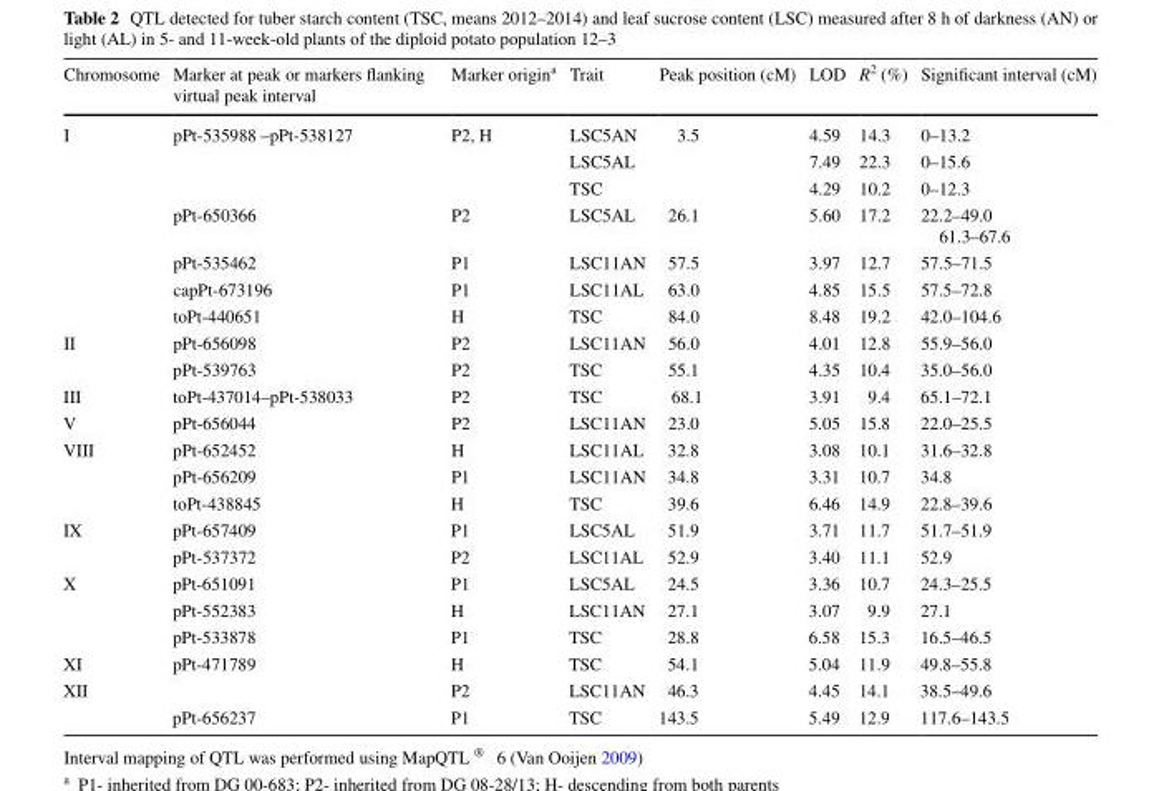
<table><thead><tr><td>Chromosome</td><td>Marker at peak or markers flanking virtual peak interval</td><td>Marker origin<sup>a</sup></td><td>Trait</td><td>Peak position (cM)</td><td>LOD</td><td>R<sup>2</sup> (%)</td><td>Significant interval (cM)</td></tr></thead><tbody><tr><td rowspan="7">I</td><td rowspan="3">pPt-535988 –pPt-538127</td><td rowspan="3">P2, H</td><td>LSC5AN</td><td rowspan="3">3.5</td><td>4.59</td><td>14.3</td><td>0–13.2</td></tr><tr><td>LSC5AL</td><td>7.49</td><td>22.3</td><td>0–15.6</td></tr><tr><td>TSC</td><td>4.29</td><td>10.2</td><td>0–12.3</td></tr><tr><td>pPt-650366</td><td>P2</td><td>LSC5AL</td><td>26.1</td><td>5.60</td><td>17.2</td><td>22.2–49.0 61.3–67.6</td></tr><tr><td>pPt-535462</td><td>P1</td><td>LSC11AN</td><td>57.5</td><td>3.97</td><td>12.7</td><td>57.5–71.5</td></tr><tr><td>capPt-673196</td><td>P1</td><td>LSC11AL</td><td>63.0</td><td>4.85</td><td>15.5</td><td>57.5–72.8</td></tr><tr><td>toPt-440651</td><td>H</td><td>TSC</td><td>84.0</td><td>8.48</td><td>19.2</td><td>42.0–104.6</td></tr><tr><td rowspan="2">II</td><td>pPt-656098</td><td>P2</td><td>LSC11AN</td><td>56.0</td><td>4.01</td><td>12.8</td><td>55.9–56.0</td></tr><tr><td>pPt-539763</td><td>P2</td><td>TSC</td><td>55.1</td><td>4.35</td><td>10.4</td><td>35.0–56.0</td></tr><tr><td>III</td><td>toPt-437014–pPt-538033</td><td>P2</td><td>TSC</td><td>68.1</td><td>3.91</td><td>9.4</td><td>65.1–72.1</td></tr><tr><td>V</td><td>pPt-656044</td><td>P2</td><td>LSC11AN</td><td>23.0</td><td>5.05</td><td>15.8</td><td>22.0–25.5</td></tr><tr><td rowspan="3">VIII</td><td>pPt-652452</td><td>H</td><td>LSC11AL</td><td>32.8</td><td>3.08</td><td>10.1</td><td>31.6–32.8</td></tr><tr><td>pPt-656209</td><td>P1</td><td>LSC11AN</td><td>34.8</td><td>3.31</td><td>10.7</td><td>34.8</td></tr><tr><td>toPt-438845</td><td>H</td><td>TSC</td><td>39.6</td><td>6.46</td><td>14.9</td><td>22.8–39.6</td></tr><tr><td rowspan="2">IX</td><td>pPt-657409</td><td>P1</td><td>LSC5AL</td><td>51.9</td><td>3.71</td><td>11.7</td><td>51.7–51.9</td></tr><tr><td>pPt-537372</td><td>P2</td><td>LSC11AL</td><td>52.9</td><td>3.40</td><td>11.1</td><td>52.9</td></tr><tr><td rowspan="3">X</td><td>pPt-651091</td><td>P1</td><td>LSC5AL</td><td>24.5</td><td>3.36</td><td>10.7</td><td>24.3–25.5</td></tr><tr><td>pPt-552383</td><td>H</td><td>LSC11AN</td><td>27.1</td><td>3.07</td><td>9.9</td><td>27.1</td></tr><tr><td>pPt-533878</td><td>P1</td><td>TSC</td><td>28.8</td><td>6.58</td><td>15.3</td><td>16.5–46.5</td></tr><tr><td>XI</td><td>pPt-471789</td><td>H</td><td>TSC</td><td>54.1</td><td>5.04</td><td>11.9</td><td>49.8–55.8</td></tr><tr><td rowspan="2">XII</td><td></td><td>P2</td><td>LSC11AN</td><td>46.3</td><td>4.45</td><td>14.1</td><td>38.5–49.6</td></tr><tr><td>pPt-656237</td><td>P1</td><td>TSC</td><td>143.5</td><td>5.49</td><td>12.9</td><td>117.6–143.5</td></tr></tbody></table>